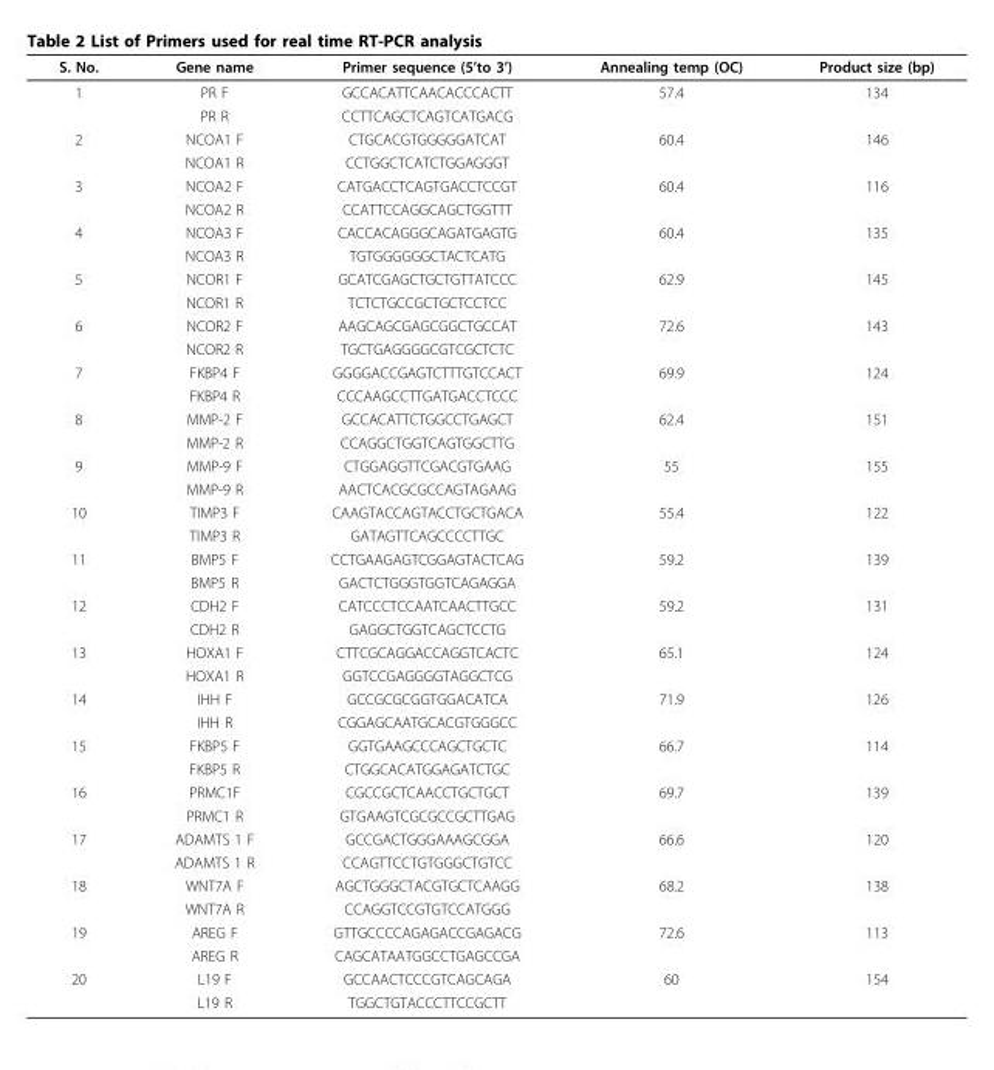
<table><thead><tr><td>S. No.</td><td>Gene name</td><td>Primer sequence (5’to 3’)</td><td>Annealing temp (OC)</td><td>Product size (bp)</td></tr></thead><tbody><tr><td rowspan="2">1</td><td>PR F</td><td>GCCACATTCAACACCCACTT</td><td>57.4</td><td>134</td></tr><tr><td>PR R</td><td>CCTTCAGCTCAGTCATGACG</td><td></td><td></td></tr><tr><td rowspan="2">2</td><td>NCOA1 F</td><td>CTGCACGTGGGGGATCAT</td><td>60.4</td><td>146</td></tr><tr><td>NCOA1 R</td><td>CCTGGCTCATCTGGAGGGT</td><td></td><td></td></tr><tr><td rowspan="2">3</td><td>NCOA2 F</td><td>CATGACCTCAGTGACCTCCGT</td><td>60.4</td><td>116</td></tr><tr><td>NCOA2 R</td><td>CCATTCCAGGCAGCTGGTTT</td><td></td><td></td></tr><tr><td rowspan="2">4</td><td>NCOA3 F</td><td>CACCACAGGGCAGATGAGTG</td><td>60.4</td><td>135</td></tr><tr><td>NCOA3 R</td><td>TGTGGGGGGCTACTCATG</td><td></td><td></td></tr><tr><td rowspan="2">5</td><td>NCOR1 F</td><td>GCATCGAGCTGCTGTTATCCC</td><td>62.9</td><td>145</td></tr><tr><td>NCOR1 R</td><td>TCTCTGCCGCTGCTCCTCC</td><td></td><td></td></tr><tr><td rowspan="2">6</td><td>NCOR2 F</td><td>AAGCAGCGAGCGGCTGCCAT</td><td>72.6</td><td>143</td></tr><tr><td>NCOR2 R</td><td>TGCTGAGGGGCGTCGCTCTC</td><td></td><td></td></tr><tr><td rowspan="2">7</td><td>FKBP4 F</td><td>GGGGACCGAGTCTTTGTCCACT</td><td>69.9</td><td>124</td></tr><tr><td>FKBP4 R</td><td>CCCAAGCCTTGATGACCTCCC</td><td></td><td></td></tr><tr><td rowspan="2">8</td><td>MMP-2 F</td><td>GCCACATTCTGGCCTGAGCT</td><td>62.4</td><td>151</td></tr><tr><td>MMP-2 R</td><td>CCAGGCTGGTCAGTGGCTTG</td><td></td><td></td></tr><tr><td rowspan="2">9</td><td>MMP-9 F</td><td>CTGGAGGTTCGACGTGAAG</td><td>55</td><td>155</td></tr><tr><td>MMP-9 R</td><td>AACTCACGCGCCAGTAGAAG</td><td></td><td></td></tr><tr><td rowspan="2">10</td><td>TIMP3 F</td><td>CAAGTACCAGTACCTGCTGACA</td><td>55.4</td><td>122</td></tr><tr><td>TIMP3 R</td><td>GATAGTTCAGCCCCTTGC</td><td></td><td></td></tr><tr><td rowspan="2">11</td><td>BMP5 F</td><td>CCTGAAGAGTCGGAGTACTCAG</td><td>59.2</td><td>139</td></tr><tr><td>BMP5 R</td><td>GACTCTGGGTGGTCAGAGGA</td><td></td><td></td></tr><tr><td rowspan="2">12</td><td>CDH2 F</td><td>CATCCCTCCAATCAACTTGCC</td><td>59.2</td><td>131</td></tr><tr><td>CDH2 R</td><td>GAGGCTGGTCAGCTCCTG</td><td></td><td></td></tr><tr><td rowspan="2">13</td><td>HOXA1 F</td><td>CTTCGCAGGACCAGGTCACTC</td><td>65.1</td><td>124</td></tr><tr><td>HOXA1 R</td><td>GGTCCGAGGGGTAGGCTCG</td><td></td><td></td></tr><tr><td rowspan="2">14</td><td>IHH F</td><td>GCCGCGCGGTGGACATCA</td><td>71.9</td><td>126</td></tr><tr><td>IHH R</td><td>CGGAGCAATGCACGTGGGCC</td><td></td><td></td></tr><tr><td rowspan="2">15</td><td>FKBP5 F</td><td>GGTGAAGCCCAGCTGCTC</td><td>66.7</td><td>114</td></tr><tr><td>FKBP5 R</td><td>CTGGCACATGGAGATCTGC</td><td></td><td></td></tr><tr><td rowspan="2">16</td><td>PRMC1F</td><td>CGCCGCTCAACCTGCTGCT</td><td>69.7</td><td>139</td></tr><tr><td>PRMC1 R</td><td>GTGAAGTCGCGCCGCTTGAG</td><td></td><td></td></tr><tr><td rowspan="2">17</td><td>ADAMTS 1 F</td><td>GCCGACTGGGAAAGCGGA</td><td>66.6</td><td>120</td></tr><tr><td>ADAMTS 1 R</td><td>CCAGTTCCTGTGGGCTGTCC</td><td></td><td></td></tr><tr><td rowspan="2">18</td><td>WNT7A F</td><td>AGCTGGGCTACGTGCTCAAGG</td><td>68.2</td><td>138</td></tr><tr><td>WNT7A R</td><td>CCAGGTCCGTGTCCATGGG</td><td></td><td></td></tr><tr><td rowspan="2">19</td><td>AREG F</td><td>GTTGCCCCAGAGACCGAGACG</td><td>72.6</td><td>113</td></tr><tr><td>AREG R</td><td>CAGCATAATGGCCTGAGCCGA</td><td></td><td></td></tr><tr><td rowspan="2">20</td><td>L19 F</td><td>GCCAACTCCCGTCAGCAGA</td><td>60</td><td>154</td></tr><tr><td>L19 R</td><td>TGGCTGTACCCTTCCGCTT</td><td></td><td></td></tr></tbody></table>